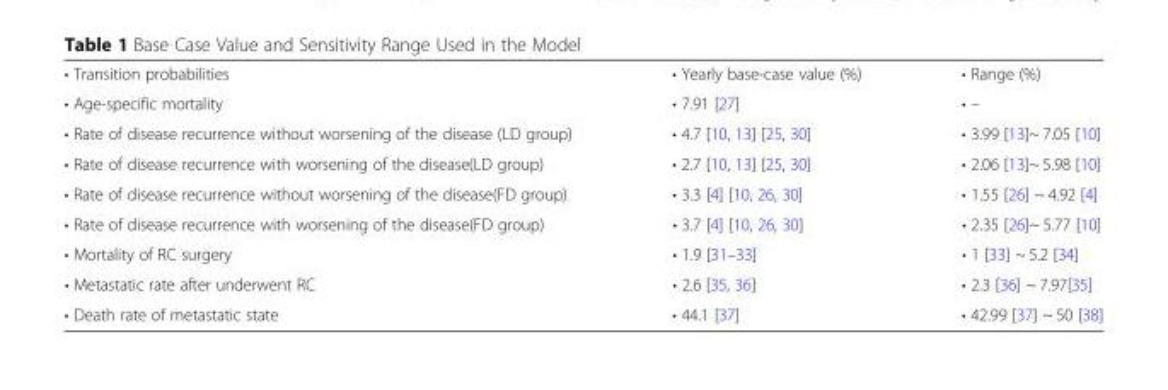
<table><tbody><tr><td>• Transition probabilities</td><td>• Yearly base-case value (%)</td><td>• Range (%)</td></tr><tr><td>• Age-specific mortality</td><td>• 7.91 [27]</td><td>• –</td></tr><tr><td>• Rate of disease recurrence without worsening of the disease (LD group)</td><td>• 4.7 [10, 13] [25, 30]</td><td>• 3.99 [13]~ 7.05 [10]</td></tr><tr><td>• Rate of disease recurrence with worsening of the disease(LD group)</td><td>• 2.7 [10, 13] [25, 30]</td><td>• 2.06 [13]~ 5.98 [10]</td></tr><tr><td>• Rate of disease recurrence without worsening of the disease(FD group)</td><td>• 3.3 [4] [10, 26, 30]</td><td>• 1.55 [26] ~ 4.92 [4]</td></tr><tr><td>• Rate of disease recurrence with worsening of the disease(FD group)</td><td>• 3.7 [4] [10, 26, 30]</td><td>• 2.35 [26]~ 5.77 [10]</td></tr><tr><td>• Mortality of RC surgery</td><td>• 1.9 [31–33]</td><td>• 1 [33] ~ 5.2 [34]</td></tr><tr><td>• Metastatic rate after underwent RC</td><td>• 2.6 [35, 36]</td><td>• 2.3 [36] ~ 7.97[35]</td></tr><tr><td>• Death rate of metastatic state</td><td>• 44.1 [37]</td><td>• 42.99 [37] ~ 50 [38]</td></tr></tbody></table>